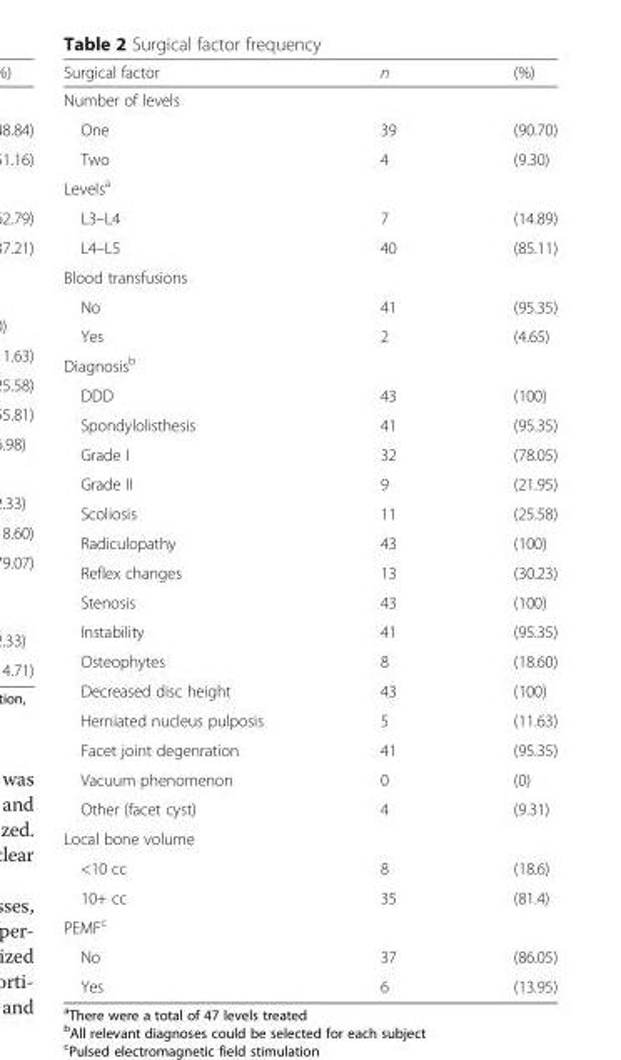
<table><thead><tr><td>Surgical factor</td><td>n</td><td>(%)</td></tr></thead><tbody><tr><td colspan="3">Number of levels</td></tr><tr><td>One</td><td>39</td><td>(90.70)</td></tr><tr><td>Two</td><td>4</td><td>(9.30)</td></tr><tr><td colspan="3">Levels<sup>a</sup></td></tr><tr><td>L3–L4</td><td>7</td><td>(14.89)</td></tr><tr><td>L4–L5</td><td>40</td><td>(85.11)</td></tr><tr><td colspan="3">Blood transfusions</td></tr><tr><td>No</td><td>41</td><td>(95.35)</td></tr><tr><td>Yes</td><td>2</td><td>(4.65)</td></tr><tr><td colspan="3">Diagnosis<sup>b</sup></td></tr><tr><td>DDD</td><td>43</td><td>(100)</td></tr><tr><td>Spondylolisthesis</td><td>41</td><td>(95.35)</td></tr><tr><td>Grade I</td><td>32</td><td>(78.05)</td></tr><tr><td>Grade II</td><td>9</td><td>(21.95)</td></tr><tr><td>Scoliosis</td><td>11</td><td>(25.58)</td></tr><tr><td>Radiculopathy</td><td>43</td><td>(100)</td></tr><tr><td>Reflex changes</td><td>13</td><td>(30.23)</td></tr><tr><td>Stenosis</td><td>43</td><td>(100)</td></tr><tr><td>Instability</td><td>41</td><td>(95.35)</td></tr><tr><td>Osteophytes</td><td>8</td><td>(18.60)</td></tr><tr><td>Decreased disc height</td><td>43</td><td>(100)</td></tr><tr><td>Herniated nucleus pulposis</td><td>5</td><td>(11.63)</td></tr><tr><td>Facet joint degenration</td><td>41</td><td>(95.35)</td></tr><tr><td>Vacuum phenomenon</td><td>0</td><td>(0)</td></tr><tr><td>Other (facet cyst)</td><td>4</td><td>(9.31)</td></tr><tr><td colspan="3">Local bone volume</td></tr><tr><td>&lt;10 cc</td><td>8</td><td>(18.6)</td></tr><tr><td>10+ cc</td><td>35</td><td>(81.4)</td></tr><tr><td colspan="3">PEMF<sup>c</sup></td></tr><tr><td>No</td><td>37</td><td>(86.05)</td></tr><tr><td>Yes</td><td>6</td><td>(13.95)</td></tr></tbody></table>